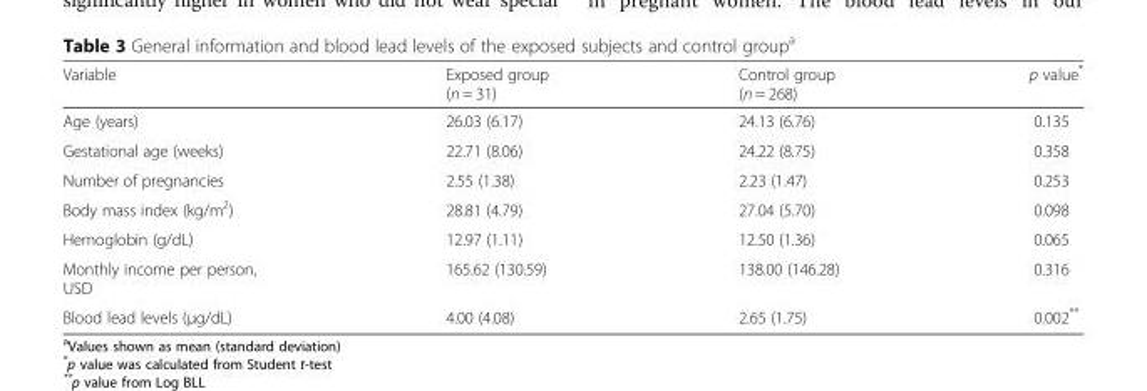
<table><thead><tr><td>Variable</td><td>Exposed group (n = 31)</td><td>Control group (n = 268)</td><td>p value*</td></tr></thead><tbody><tr><td>Age (years)</td><td>26.03 (6.17)</td><td>24.13 (6.76)</td><td>0.135</td></tr><tr><td>Gestational age (weeks)</td><td>22.71 (8.06)</td><td>24.22 (8.75)</td><td>0.358</td></tr><tr><td>Number of pregnancies</td><td>2.55 (1.38)</td><td>2.23 (1.47)</td><td>0.253</td></tr><tr><td>Body mass index (kg/m<sup>2</sup>)</td><td>28.81 (4.79)</td><td>27.04 (5.70)</td><td>0.098</td></tr><tr><td>Hemoglobin (g/dL)</td><td>12.97 (1.11)</td><td>12.50 (1.36)</td><td>0.065</td></tr><tr><td>Monthly income per person, USD</td><td>165.62 (130.59)</td><td>138.00 (146.28)</td><td>0.316</td></tr><tr><td>Blood lead levels (μg/dL)</td><td>4.00 (4.08)</td><td>2.65 (1.75)</td><td>0.002**</td></tr></tbody></table>